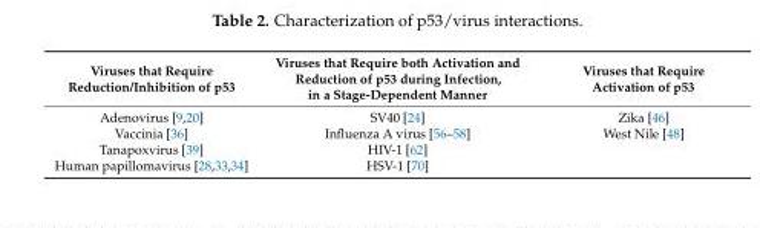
<table><thead><tr><td>Viruses that Require Reduction/Inhibition of p53</td><td>Viruses that Require both Activation and Reduction of p53 during Infection, in a Stage-Dependent Manner</td><td>Viruses that Require Activation of p53</td></tr></thead><tbody><tr><td>Adenovirus [9,20]</td><td>SV40 [24]</td><td>Zika [46]</td></tr><tr><td>Vaccinia [36]</td><td>Influenza A virus [56–58]</td><td>West Nile [48]</td></tr><tr><td>Tanapoxvirus [39]</td><td>HIV-1 [62]</td><td></td></tr><tr><td>Human papillomavirus [28,33,34]</td><td>HSV-1 [70]</td><td></td></tr></tbody></table>